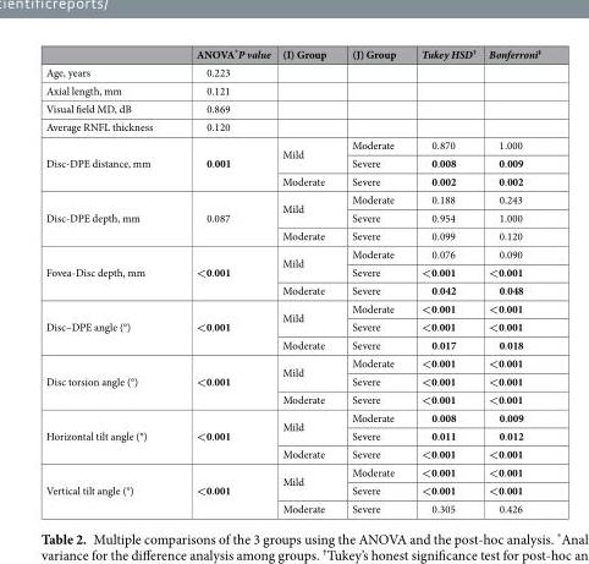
<table><thead><tr><td></td><td>ANOVA*P value</td><td>(I) Group</td><td>(J) Group</td><td>Tukey HSD<sup>†</sup></td><td>Bonferroni<sup>‡</sup></td></tr></thead><tbody><tr><td>Age, years</td><td>0.223</td><td></td><td></td><td></td><td></td></tr><tr><td>Axial length, mm</td><td>0.121</td><td></td><td></td><td></td><td></td></tr><tr><td>Visual field MD, dB</td><td>0.869</td><td></td><td></td><td></td><td></td></tr><tr><td>Average RNFL thickness</td><td>0.120</td><td></td><td></td><td></td><td></td></tr><tr><td rowspan="3">Disc-DPE distance, mm</td><td rowspan="3">0.001</td><td rowspan="2">Mild</td><td>Moderate</td><td>0.870</td><td>1.000</td></tr><tr><td>Severe</td><td>0.008</td><td>0.009</td></tr><tr><td>Moderate</td><td>Severe</td><td>0.002</td><td>0.002</td></tr><tr><td rowspan="3">Disc-DPE depth, mm</td><td rowspan="3">0.087</td><td rowspan="2">Mild</td><td>Moderate</td><td>0.188</td><td>0.243</td></tr><tr><td>Severe</td><td>0.954</td><td>1.000</td></tr><tr><td>Moderate</td><td>Severe</td><td>0.099</td><td>0.120</td></tr><tr><td rowspan="3">Fovea-Disc depth, mm</td><td rowspan="3">&lt;0.001</td><td rowspan="2">Mild</td><td>Moderate</td><td>0.076</td><td>0.090</td></tr><tr><td>Severe</td><td>&lt;0.001</td><td>&lt;0.001</td></tr><tr><td>Moderate</td><td>Severe</td><td>0.042</td><td>0.048</td></tr><tr><td rowspan="3">Disc–DPE angle (°)</td><td rowspan="3">&lt;0.001</td><td rowspan="2">Mild</td><td>Moderate</td><td>&lt;0.001</td><td>&lt;0.001</td></tr><tr><td>Severe</td><td>&lt;0.001</td><td>&lt;0.001</td></tr><tr><td>Moderate</td><td>Severe</td><td>0.017</td><td>0.018</td></tr><tr><td rowspan="3">Disc torsion angle (°)</td><td rowspan="3">&lt;0.001</td><td rowspan="2">Mild</td><td>Moderate</td><td>&lt;0.001</td><td>&lt;0.001</td></tr><tr><td>Severe</td><td>&lt;0.001</td><td>&lt;0.001</td></tr><tr><td>Moderate</td><td>Severe</td><td>&lt;0.001</td><td>&lt;0.001</td></tr><tr><td rowspan="3">Horizontal tilt angle (°)</td><td rowspan="3">&lt;0.001</td><td rowspan="2">Mild</td><td>Moderate</td><td>0.008</td><td>0.009</td></tr><tr><td>Severe</td><td>0.011</td><td>0.012</td></tr><tr><td>Moderate</td><td>Severe</td><td>&lt;0.001</td><td>&lt;0.001</td></tr><tr><td rowspan="3">Vertical tilt angle (°)</td><td rowspan="3">&lt;0.001</td><td rowspan="2">Mild</td><td>Moderate</td><td>&lt;0.001</td><td>&lt;0.001</td></tr><tr><td>Severe</td><td>&lt;0.001</td><td>&lt;0.001</td></tr><tr><td>Moderate</td><td>Severe</td><td>0.305</td><td>0.426</td></tr></tbody></table>